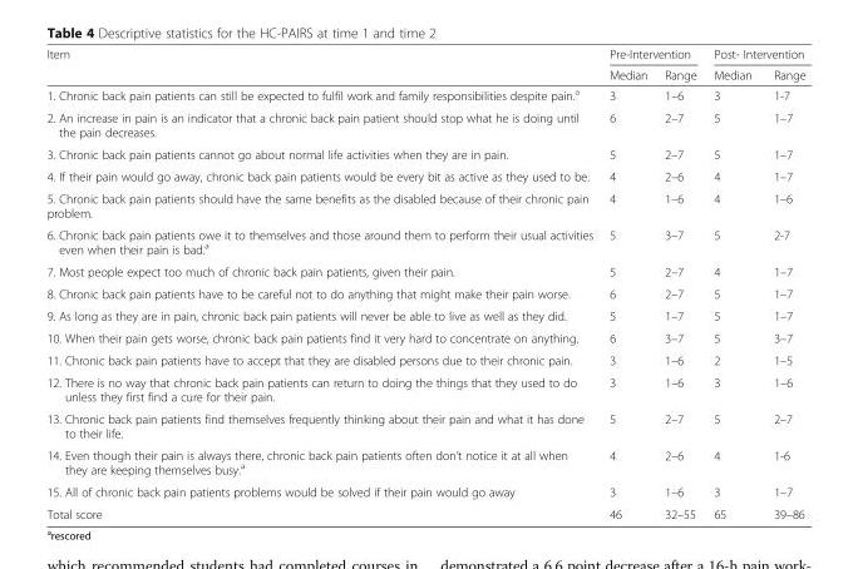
<table><thead><tr><td rowspan="2">Item</td><td colspan="2">Pre-Intervention</td><td colspan="2">Post- Intervention</td></tr><tr><td>Median</td><td>Range</td><td>Median</td><td>Range</td></tr></thead><tbody><tr><td>1. Chronic back pain patients can still be expected to fulfil work and family responsibilities despite pain.<sup>a</sup></td><td>3</td><td>1–6</td><td>3</td><td>1-7</td></tr><tr><td>2. An increase in pain is an indicator that a chronic back pain patient should stop what he is doing until the pain decreases.</td><td>6</td><td>2–7</td><td>5</td><td>1–7</td></tr><tr><td>3. Chronic back pain patients cannot go about normal life activities when they are in pain.</td><td>5</td><td>2–7</td><td>5</td><td>1–7</td></tr><tr><td>4. If their pain would go away, chronic back pain patients would be every bit as active as they used to be.</td><td>4</td><td>2–6</td><td>4</td><td>1–7</td></tr><tr><td>5. Chronic back pain patients should have the same benefits as the disabled because of their chronic pain problem.</td><td>4</td><td>1–6</td><td>4</td><td>1–6</td></tr><tr><td>6. Chronic back pain patients owe it to themselves and those around them to perform their usual activities even when their pain is bad.<sup>a</sup></td><td>5</td><td>3–7</td><td>5</td><td>2-7</td></tr><tr><td>7. Most people expect too much of chronic back pain patients, given their pain.</td><td>5</td><td>2–7</td><td>4</td><td>1–7</td></tr><tr><td>8. Chronic back pain patients have to be careful not to do anything that might make their pain worse.</td><td>6</td><td>2–7</td><td>5</td><td>1–7</td></tr><tr><td>9. As long as they are in pain, chronic back pain patients will never be able to live as well as they did.</td><td>5</td><td>1–7</td><td>5</td><td>1–7</td></tr><tr><td>10. When their pain gets worse, chronic back pain patients find it very hard to concentrate on anything.</td><td>6</td><td>3–7</td><td>5</td><td>3–7</td></tr><tr><td>11. Chronic back pain patients have to accept that they are disabled persons due to their chronic pain.</td><td>3</td><td>1–6</td><td>2</td><td>1–5</td></tr><tr><td>12. There is no way that chronic back pain patients can return to doing the things that they used to do unless they first find a cure for their pain.</td><td>3</td><td>1–6</td><td>3</td><td>1–6</td></tr><tr><td>13. Chronic back pain patients find themselves frequently thinking about their pain and what it has done to their life.</td><td>5</td><td>2–7</td><td>5</td><td>2–7</td></tr><tr><td>14. Even though their pain is always there, chronic back pain patients often don’t notice it at all when they are keeping themselves busy.<sup>a</sup></td><td>4</td><td>2–6</td><td>4</td><td>1-6</td></tr><tr><td>15. All of chronic back pain patients problems would be solved if their pain would go away</td><td>3</td><td>1–6</td><td>3</td><td>1–7</td></tr><tr><td>Total score</td><td>46</td><td>32–55</td><td>65</td><td>39–86</td></tr></tbody></table>